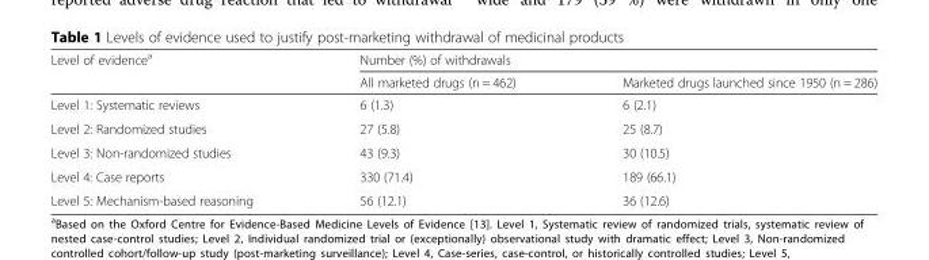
<table><thead><tr><td rowspan="2">Level of evidence<sup>a</sup></td><td colspan="2">Number (%) of withdrawals</td></tr><tr><td>All marketed drugs (n = 462)</td><td>Marketed drugs launched since 1950 (n = 286)</td></tr></thead><tbody><tr><td>Level 1: Systematic reviews</td><td>6 (1.3)</td><td>6 (2.1)</td></tr><tr><td>Level 2: Randomized studies</td><td>27 (5.8)</td><td>25 (8.7)</td></tr><tr><td>Level 3: Non-randomized studies</td><td>43 (9.3)</td><td>30 (10.5)</td></tr><tr><td>Level 4: Case reports</td><td>330 (71.4)</td><td>189 (66.1)</td></tr><tr><td>Level 5: Mechanism-based reasoning</td><td>56 (12.1)</td><td>36 (12.6)</td></tr></tbody></table>